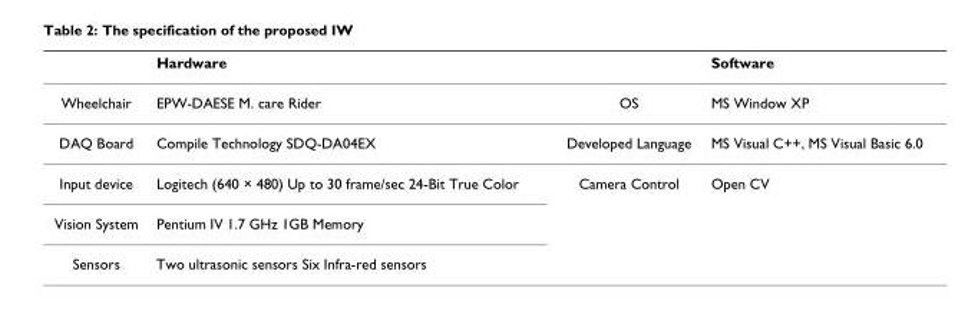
<table><thead><tr><td></td><td>Hardware</td><td></td><td>Software</td></tr></thead><tbody><tr><td>Wheelchair</td><td>EPW-DAESE M. care Rider</td><td>OS</td><td>MS Window XP</td></tr><tr><td>DAQ Board</td><td>Compile Technology SDQ-DA04EX</td><td>Developed Language</td><td>MS Visual C++, MS Visual Basic 6.0</td></tr><tr><td>Input device</td><td>Logitech (640 × 480) Up to 30 frame/sec 24-Bit True Color</td><td>Camera Control</td><td>Open CV</td></tr><tr><td>Vision System</td><td>Pentium IV 1.7 GHz 1GB Memory</td><td></td><td></td></tr><tr><td>Sensors</td><td>Two ultrasonic sensors Six Infra-red sensors</td><td></td><td></td></tr></tbody></table>